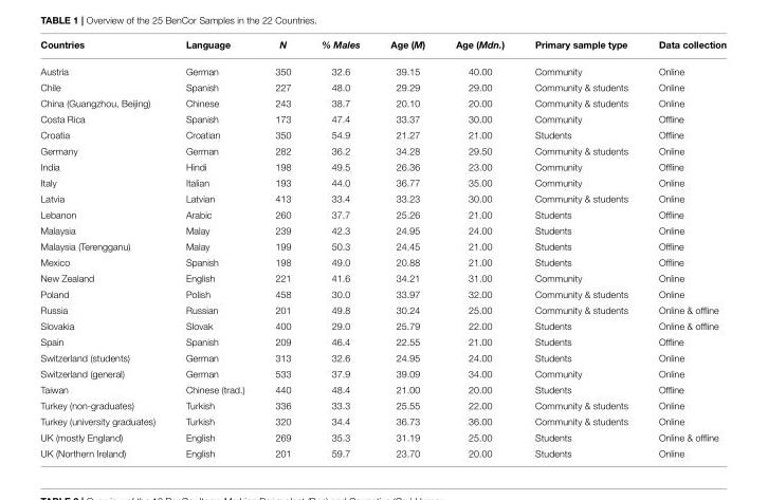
<table><thead><tr><td>Countries</td><td>Language</td><td>N</td><td>% Males</td><td>Age (M)</td><td>Age (Mdn.)</td><td>Primary sample type</td><td>Data collection</td></tr></thead><tbody><tr><td>Austria</td><td>German</td><td>350</td><td>32.6</td><td>39.15</td><td>40.00</td><td>Community</td><td>Online</td></tr><tr><td>Chile</td><td>Spanish</td><td>227</td><td>48.0</td><td>29.29</td><td>29.00</td><td>Community &amp; students</td><td>Online</td></tr><tr><td>China (Guangzhou, Beijing)</td><td>Chinese</td><td>243</td><td>38.7</td><td>20.10</td><td>20.00</td><td>Community &amp; students</td><td>Online</td></tr><tr><td>Costa Rica</td><td>Spanish</td><td>173</td><td>47.4</td><td>33.37</td><td>30.00</td><td>Community</td><td>Offline</td></tr><tr><td>Croatia</td><td>Croatian</td><td>350</td><td>54.9</td><td>21.27</td><td>21.00</td><td>Students</td><td>Offline</td></tr><tr><td>Germany</td><td>German</td><td>282</td><td>36.2</td><td>34.28</td><td>29.50</td><td>Community &amp; students</td><td>Online</td></tr><tr><td>India</td><td>Hindi</td><td>198</td><td>49.5</td><td>26.36</td><td>23.00</td><td>Community</td><td>Offline</td></tr><tr><td>Italy</td><td>Italian</td><td>193</td><td>44.0</td><td>36.77</td><td>35.00</td><td>Community</td><td>Online</td></tr><tr><td>Latvia</td><td>Latvian</td><td>413</td><td>33.4</td><td>33.23</td><td>30.00</td><td>Community &amp; students</td><td>Online</td></tr><tr><td>Lebanon</td><td>Arabic</td><td>260</td><td>37.7</td><td>25.26</td><td>21.00</td><td>Students</td><td>Offline</td></tr><tr><td>Malaysia</td><td>Malay</td><td>239</td><td>42.3</td><td>24.95</td><td>24.00</td><td>Students</td><td>Online</td></tr><tr><td>Malaysia (Terengganu)</td><td>Malay</td><td>199</td><td>50.3</td><td>24.45</td><td>21.00</td><td>Students</td><td>Offline</td></tr><tr><td>Mexico</td><td>Spanish</td><td>198</td><td>49.0</td><td>20.88</td><td>21.00</td><td>Students</td><td>Offline</td></tr><tr><td>New Zealand</td><td>English</td><td>221</td><td>41.6</td><td>34.21</td><td>31.00</td><td>Community</td><td>Online</td></tr><tr><td>Poland</td><td>Polish</td><td>458</td><td>30.0</td><td>33.97</td><td>32.00</td><td>Community &amp; students</td><td>Online</td></tr><tr><td>Russia</td><td>Russian</td><td>201</td><td>49.8</td><td>30.24</td><td>25.00</td><td>Community &amp; students</td><td>Online &amp; offline</td></tr><tr><td>Slovakia</td><td>Slovak</td><td>400</td><td>29.0</td><td>25.79</td><td>22.00</td><td>Students</td><td>Online &amp; offline</td></tr><tr><td>Spain</td><td>Spanish</td><td>209</td><td>46.4</td><td>22.55</td><td>21.00</td><td>Students</td><td>Offline</td></tr><tr><td>Switzerland (students)</td><td>German</td><td>313</td><td>32.6</td><td>24.95</td><td>24.00</td><td>Students</td><td>Online</td></tr><tr><td>Switzerland (general)</td><td>German</td><td>533</td><td>37.9</td><td>39.09</td><td>34.00</td><td>Community</td><td>Online</td></tr><tr><td>Taiwan</td><td>Chinese (trad.)</td><td>440</td><td>48.4</td><td>21.00</td><td>20.00</td><td>Students</td><td>Offline</td></tr><tr><td>Turkey (non-graduates)</td><td>Turkish</td><td>336</td><td>33.3</td><td>25.55</td><td>22.00</td><td>Community &amp; students</td><td>Online</td></tr><tr><td>Turkey (university graduates)</td><td>Turkish</td><td>320</td><td>34.4</td><td>36.73</td><td>36.00</td><td>Community &amp; students</td><td>Online</td></tr><tr><td>UK (mostly England)</td><td>English</td><td>269</td><td>35.3</td><td>31.19</td><td>25.00</td><td>Students</td><td>Online &amp; offline</td></tr><tr><td>UK (Northern Ireland)</td><td>English</td><td>201</td><td>59.7</td><td>23.70</td><td>20.00</td><td>Students</td><td>Online</td></tr></tbody></table>